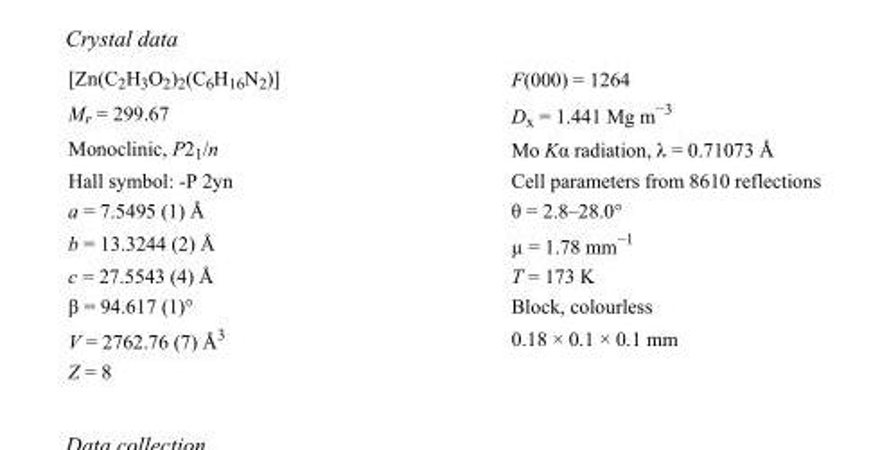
<table><tbody><tr><td>[Zn(C<sub>2</sub>H<sub>3</sub>O<sub>2</sub>)<sub>2</sub>(C<sub>6</sub>H<sub>16</sub>N<sub>2</sub>)]</td><td>F(000) = 1264</td></tr><tr><td>M<sub>r</sub> = 299.67</td><td>D<sub>x</sub> = 1.441 Mg m<sup>−3</sup></td></tr><tr><td>Monoclinic, P2<sub>1</sub>/n</td><td>Mo Kα radiation, λ = 0.71073 Å</td></tr><tr><td>Hall symbol: -P 2yn</td><td>Cell parameters from 8610 reflections</td></tr><tr><td>a = 7.5495 (1) Å</td><td>θ = 2.8–28.0°</td></tr><tr><td>b = 13.3244 (2) Å</td><td>µ = 1.78 mm<sup>−1</sup></td></tr><tr><td>c = 27.5543 (4) Å</td><td>T = 173 K</td></tr><tr><td>β = 94.617 (1)°</td><td>Block, colourless</td></tr><tr><td>V = 2762.76 (7) Å<sup>3</sup></td><td>0.18 × 0.1 × 0.1 mm</td></tr><tr><td>Z = 8</td><td></td></tr></tbody></table>